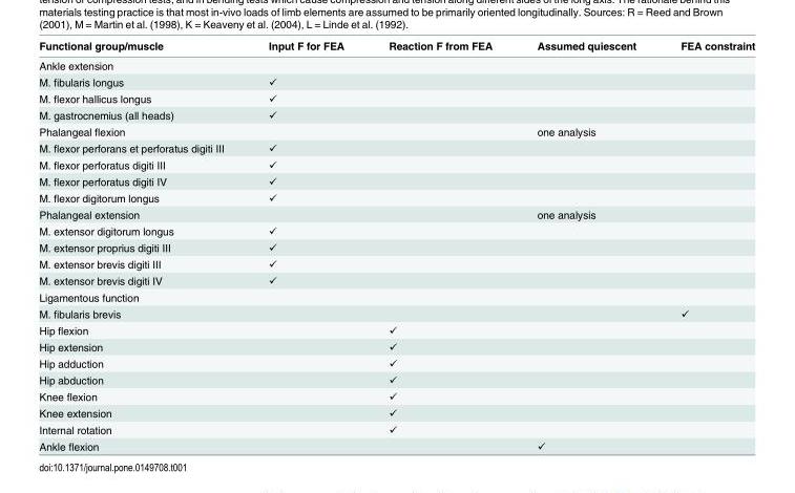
<table><thead><tr><td>Functional group/muscle</td><td>Input F for FEA</td><td>Reaction F from FEA</td><td>Assumed quiescent</td><td>FEA constraint</td></tr></thead><tbody><tr><td colspan="5">Ankle extension</td></tr><tr><td>M. fibularis longus</td><td>✓</td><td></td><td></td><td></td></tr><tr><td>M. flexor hallicus longus</td><td>✓</td><td></td><td></td><td></td></tr><tr><td>M. gastrocnemius (all heads)</td><td>✓</td><td></td><td></td><td></td></tr><tr><td>Phalangeal flexion</td><td></td><td></td><td>one analysis</td><td></td></tr><tr><td>M. flexor perforans et perforatus digiti III</td><td>✓</td><td></td><td></td><td></td></tr><tr><td>M. flexor perforatus digiti III</td><td>✓</td><td></td><td></td><td></td></tr><tr><td>M. flexor perforatus digiti IV</td><td>✓</td><td></td><td></td><td></td></tr><tr><td>M. flexor digitorum longus</td><td>✓</td><td></td><td></td><td></td></tr><tr><td>Phalangeal extension</td><td></td><td></td><td>one analysis</td><td></td></tr><tr><td>M. extensor digitorum longus</td><td>✓</td><td></td><td></td><td></td></tr><tr><td>M. extensor proprius digiti III</td><td>✓</td><td></td><td></td><td></td></tr><tr><td>M. extensor brevis digiti III</td><td>✓</td><td></td><td></td><td></td></tr><tr><td>M. extensor brevis digiti IV</td><td>✓</td><td></td><td></td><td></td></tr><tr><td colspan="5">Ligamentous function</td></tr><tr><td>M. fibularis brevis</td><td></td><td></td><td></td><td>✓</td></tr><tr><td>Hip flexion</td><td></td><td>✓</td><td></td><td></td></tr><tr><td>Hip extension</td><td></td><td>✓</td><td></td><td></td></tr><tr><td>Hip adduction</td><td></td><td>✓</td><td></td><td></td></tr><tr><td>Hip abduction</td><td></td><td>✓</td><td></td><td></td></tr><tr><td>Knee flexion</td><td></td><td>✓</td><td></td><td></td></tr><tr><td>Knee extension</td><td></td><td>✓</td><td></td><td></td></tr><tr><td>Internal rotation</td><td></td><td>✓</td><td></td><td></td></tr><tr><td>Ankle flexion</td><td></td><td></td><td>✓</td><td></td></tr></tbody></table>